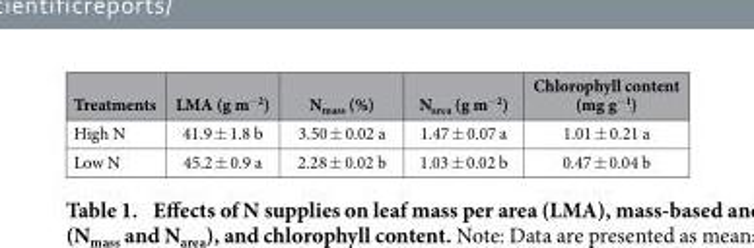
<table><thead><tr><td>Treatments</td><td>LMA (g m<sup>−2</sup>)</td><td>N<sub>mass</sub> (%)</td><td>N<sub>area</sub> (g m<sup>−2</sup>)</td><td>Chlorophyll content (mg g<sup>−1</sup>)</td></tr></thead><tbody><tr><td>High N</td><td>41.9 ± 1.8 b</td><td>3.50 ± 0.02 a</td><td>1.47 ± 0.07 a</td><td>1.01 ± 0.21 a</td></tr><tr><td>Low N</td><td>45.2 ± 0.9 a</td><td>2.28 ± 0.02 b</td><td>1.03 ± 0.02 b</td><td>0.47 ± 0.04 b</td></tr></tbody></table>